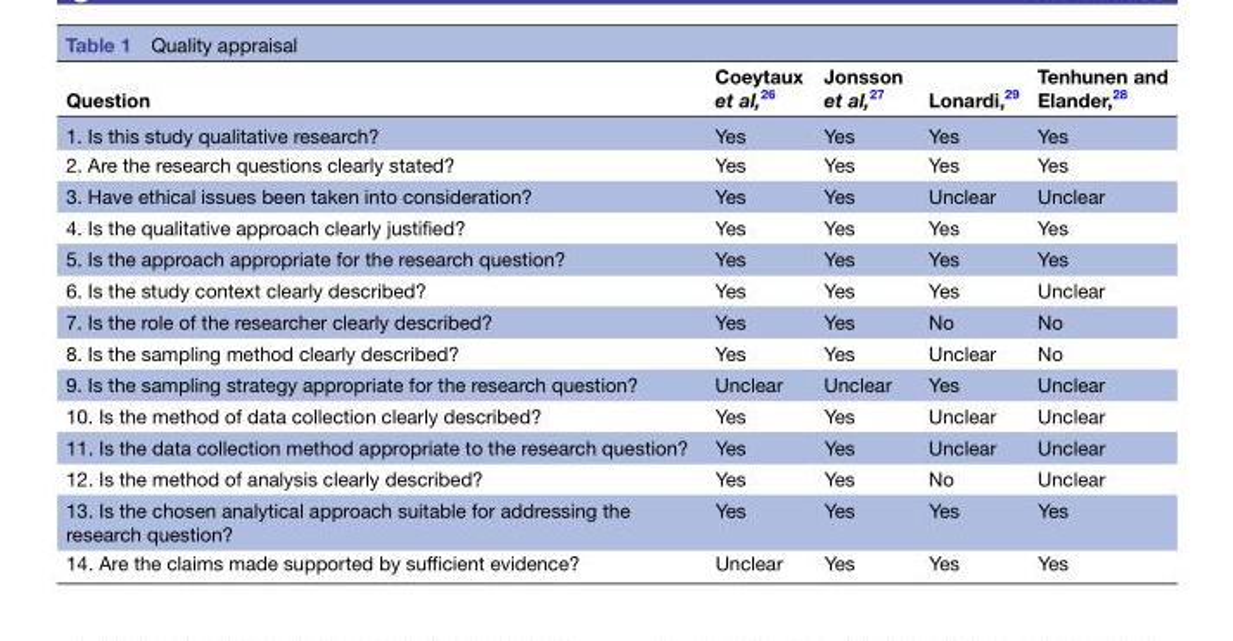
<table><thead><tr><td>Question</td><td>Coeytaux et al,<sup>26</sup></td><td>Jonsson et al,<sup>27</sup></td><td>Lonardi,<sup>29</sup></td><td>Tenhunen and Elander,<sup>28</sup></td></tr></thead><tbody><tr><td>1. Is this study qualitative research?</td><td>Yes</td><td>Yes</td><td>Yes</td><td>Yes</td></tr><tr><td>2. Are the research questions clearly stated?</td><td>Yes</td><td>Yes</td><td>Yes</td><td>Yes</td></tr><tr><td>3. Have ethical issues been taken into consideration?</td><td>Yes</td><td>Yes</td><td>Unclear</td><td>Unclear</td></tr><tr><td>4. Is the qualitative approach clearly justified?</td><td>Yes</td><td>Yes</td><td>Yes</td><td>Yes</td></tr><tr><td>5. Is the approach appropriate for the research question?</td><td>Yes</td><td>Yes</td><td>Yes</td><td>Yes</td></tr><tr><td>6. Is the study context clearly described?</td><td>Yes</td><td>Yes</td><td>Yes</td><td>Unclear</td></tr><tr><td>7. Is the role of the researcher clearly described?</td><td>Yes</td><td>Yes</td><td>No</td><td>No</td></tr><tr><td>8. Is the sampling method clearly described?</td><td>Yes</td><td>Yes</td><td>Unclear</td><td>No</td></tr><tr><td>9. Is the sampling strategy appropriate for the research question?</td><td>Unclear</td><td>Unclear</td><td>Yes</td><td>Unclear</td></tr><tr><td>10. Is the method of data collection clearly described?</td><td>Yes</td><td>Yes</td><td>Unclear</td><td>Unclear</td></tr><tr><td>11. Is the data collection method appropriate to the research question?</td><td>Yes</td><td>Yes</td><td>Unclear</td><td>Unclear</td></tr><tr><td>12. Is the method of analysis clearly described?</td><td>Yes</td><td>Yes</td><td>No</td><td>Unclear</td></tr><tr><td>13. Is the chosen analytical approach suitable for addressing the research question?</td><td>Yes</td><td>Yes</td><td>Yes</td><td>Yes</td></tr><tr><td>14. Are the claims made supported by sufficient evidence?</td><td>Unclear</td><td>Yes</td><td>Yes</td><td>Yes</td></tr></tbody></table>